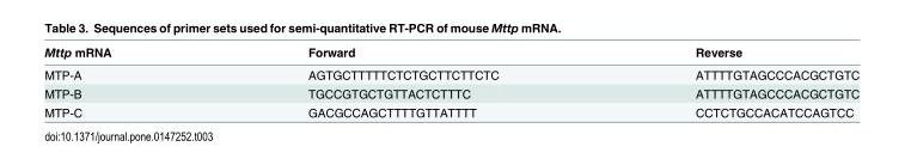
<table><thead><tr><td>Mttp mRNA</td><td>Forward</td><td>Reverse</td></tr></thead><tbody><tr><td>MTP-A</td><td>AGTGCTTTTTCTCTGCTTCTTCTC</td><td>ATTTTGTAGCCCACGCTGTC</td></tr><tr><td>MTP-B</td><td>TGCCGTGCTGTTACTCTTTC</td><td>ATTTTGTAGCCCACGCTGTC</td></tr><tr><td>MTP-C</td><td>GACGCCAGCTTTTGTTATTTT</td><td>CCTCTGCCACATCCAGTCC</td></tr></tbody></table>